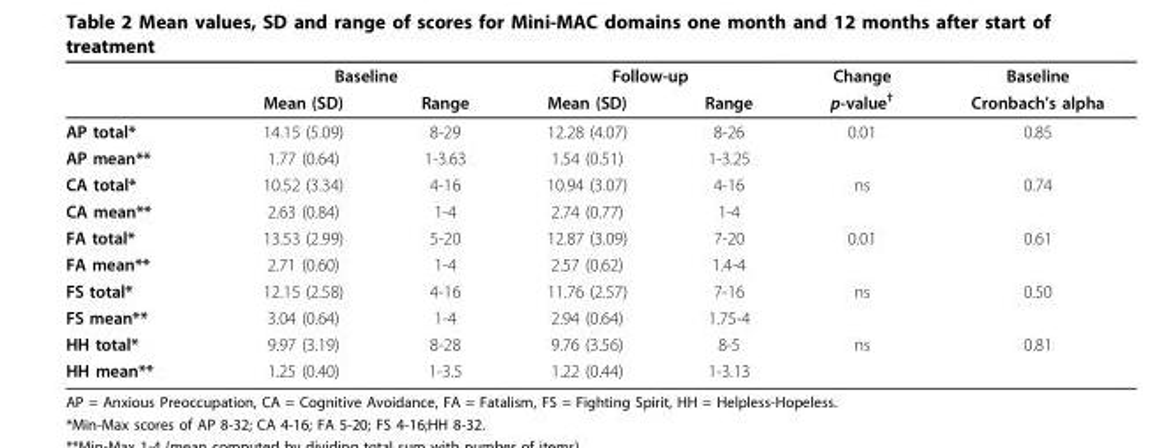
<table><thead><tr><td rowspan="2"></td><td colspan="2">Baseline</td><td colspan="2">Follow-up</td><td rowspan="2">Change p-value<sup>†</sup></td><td rowspan="2">Baseline Cronbach’s alpha</td></tr><tr><td>Mean (SD)</td><td>Range</td><td>Mean (SD)</td><td>Range</td></tr></thead><tbody><tr><td>AP total*</td><td>14.15 (5.09)</td><td>8-29</td><td>12.28 (4.07)</td><td>8-26</td><td>0.01</td><td>0.85</td></tr><tr><td>AP mean**</td><td>1.77 (0.64)</td><td>1-3.63</td><td>1.54 (0.51)</td><td>1-3.25</td><td></td><td></td></tr><tr><td>CA total*</td><td>10.52 (3.34)</td><td>4-16</td><td>10.94 (3.07)</td><td>4-16</td><td>ns</td><td>0.74</td></tr><tr><td>CA mean**</td><td>2.63 (0.84)</td><td>1-4</td><td>2.74 (0.77)</td><td>1-4</td><td></td><td></td></tr><tr><td>FA total*</td><td>13.53 (2.99)</td><td>5-20</td><td>12.87 (3.09)</td><td>7-20</td><td>0.01</td><td>0.61</td></tr><tr><td>FA mean**</td><td>2.71 (0.60)</td><td>1-4</td><td>2.57 (0.62)</td><td>1.4-4</td><td></td><td></td></tr><tr><td>FS total*</td><td>12.15 (2.58)</td><td>4-16</td><td>11.76 (2.57)</td><td>7-16</td><td>ns</td><td>0.50</td></tr><tr><td>FS mean**</td><td>3.04 (0.64)</td><td>1-4</td><td>2.94 (0.64)</td><td>1.75-4</td><td></td><td></td></tr><tr><td>HH total*</td><td>9.97 (3.19)</td><td>8-28</td><td>9.76 (3.56)</td><td>8-5</td><td>ns</td><td>0.81</td></tr><tr><td>HH mean**</td><td>1.25 (0.40)</td><td>1-3.5</td><td>1.22 (0.44)</td><td>1-3.13</td><td></td><td></td></tr></tbody></table>